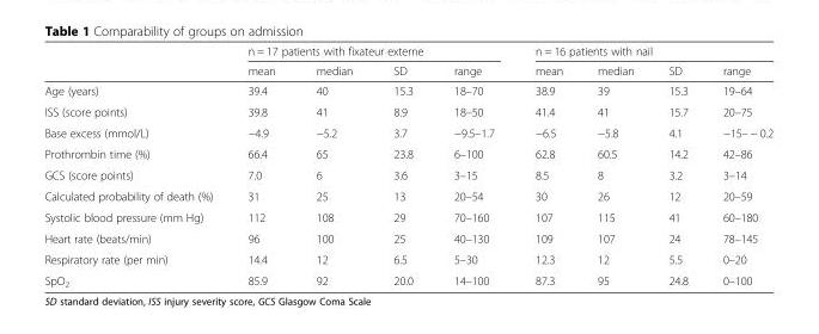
<table><thead><tr><td rowspan="2"></td><td colspan="4">n = 17 patients with fixateur externe</td><td colspan="4">n = 16 patients with nail</td></tr><tr><td>mean</td><td>median</td><td>SD</td><td>range</td><td>mean</td><td>median</td><td>SD</td><td>range</td></tr></thead><tbody><tr><td>Age (years)</td><td>39.4</td><td>40</td><td>15.3</td><td>18–70</td><td>38.9</td><td>39</td><td>15.3</td><td>19–64</td></tr><tr><td>ISS (score points)</td><td>39.8</td><td>41</td><td>8.9</td><td>18–50</td><td>41.4</td><td>41</td><td>15.7</td><td>20–75</td></tr><tr><td>Base excess (mmol/L)</td><td>−4.9</td><td>−5.2</td><td>3.7</td><td>−9.5–1.7</td><td>−6.5</td><td>−5.8</td><td>4.1</td><td>−15– − 0.2</td></tr><tr><td>Prothrombin time (%)</td><td>66.4</td><td>65</td><td>23.8</td><td>6–100</td><td>62.8</td><td>60.5</td><td>14.2</td><td>42–86</td></tr><tr><td>GCS (score points)</td><td>7.0</td><td>6</td><td>3.6</td><td>3–15</td><td>8.5</td><td>8</td><td>3.2</td><td>3–14</td></tr><tr><td>Calculated probability of death (%)</td><td>31</td><td>25</td><td>13</td><td>20–54</td><td>30</td><td>26</td><td>12</td><td>20–59</td></tr><tr><td>Systolic blood pressure (mm Hg)</td><td>112</td><td>108</td><td>29</td><td>70–160</td><td>107</td><td>115</td><td>41</td><td>60–180</td></tr><tr><td>Heart rate (beats/min)</td><td>96</td><td>100</td><td>25</td><td>40–130</td><td>109</td><td>107</td><td>24</td><td>78–145</td></tr><tr><td>Respiratory rate (per min)</td><td>14.4</td><td>12</td><td>6.5</td><td>5–30</td><td>12.3</td><td>12</td><td>5.5</td><td>0–20</td></tr><tr><td>SpO<sub>2</sub></td><td>85.9</td><td>92</td><td>20.0</td><td>14–100</td><td>87.3</td><td>95</td><td>24.8</td><td>0–100</td></tr></tbody></table>